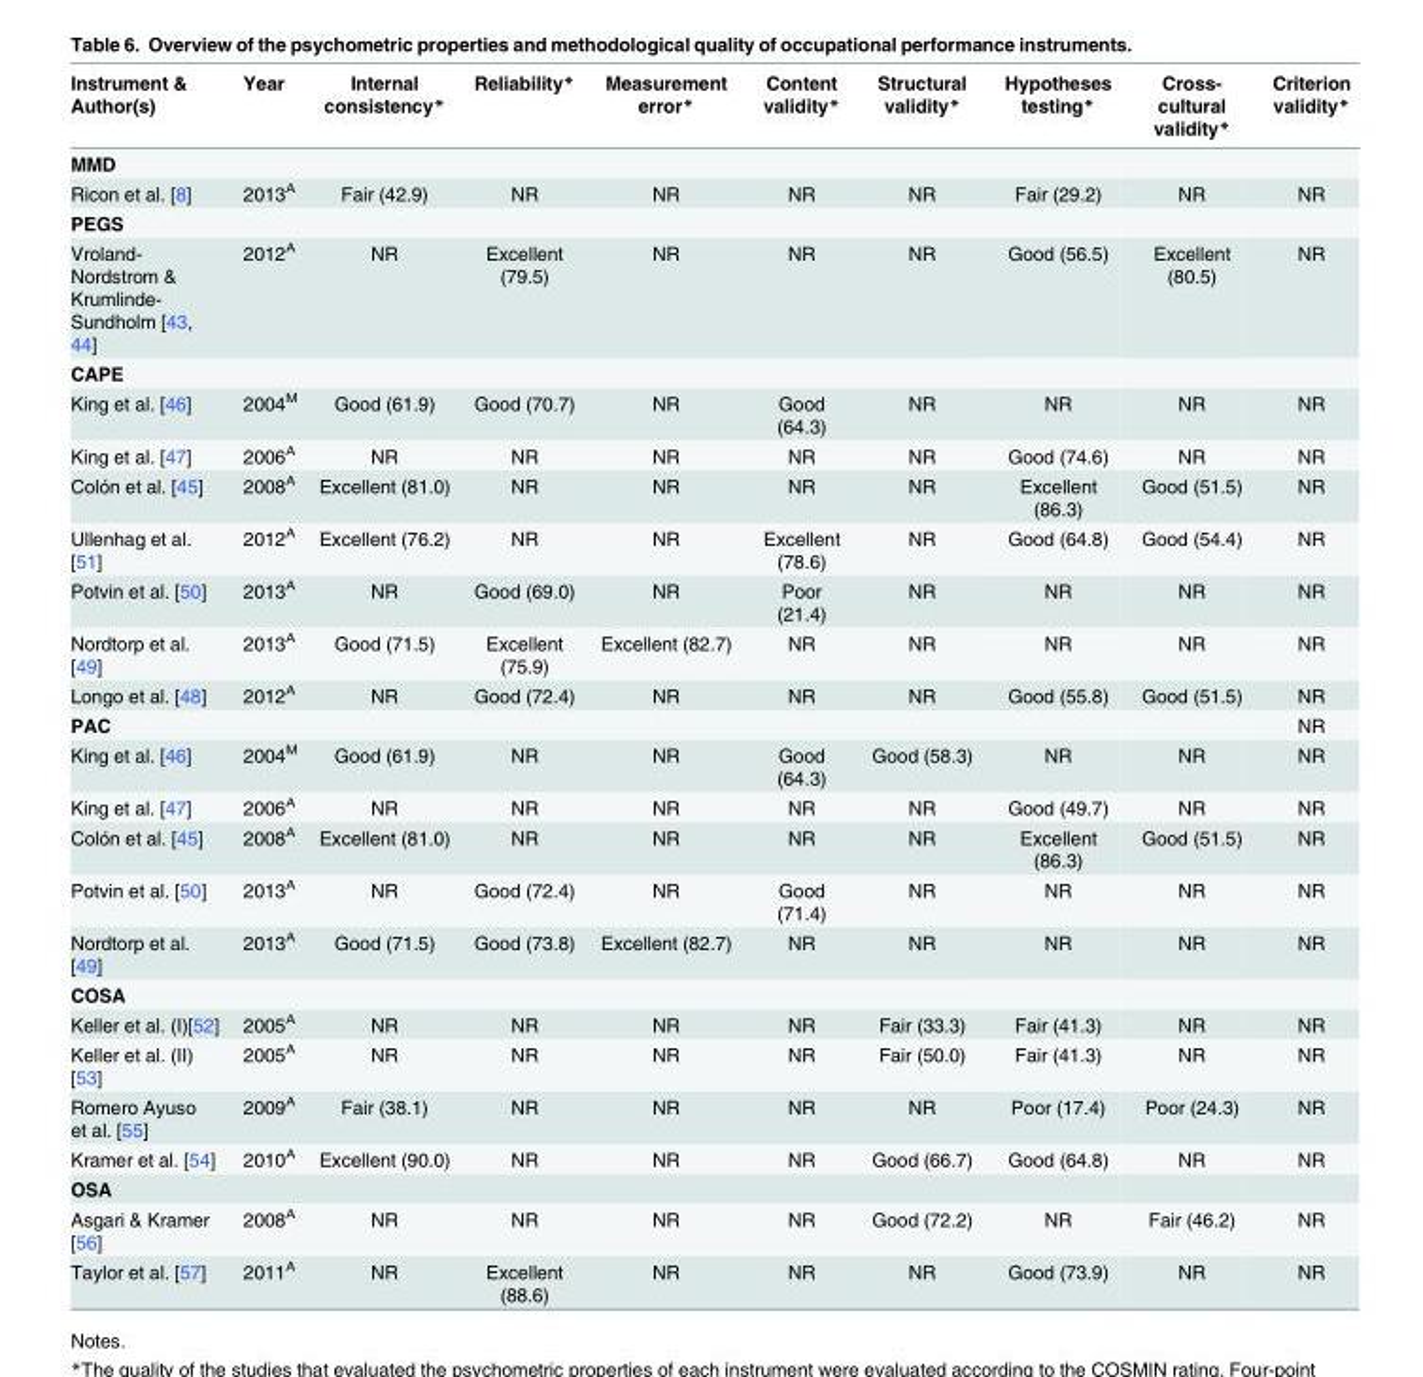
<table><thead><tr><td>Instrument &amp; Author(s)</td><td>Year</td><td>Internal consistency*</td><td>Reliability*</td><td>Measurement error*</td><td>Content validity*</td><td>Structural validity*</td><td>Hypotheses testing*</td><td>Cross- cultural validity*</td><td>Criterion validity*</td></tr></thead><tbody><tr><td colspan="10">MMD</td></tr><tr><td>Ricon et al. [8]</td><td>2013<sup>A</sup></td><td>Fair (42.9)</td><td>NR</td><td>NR</td><td>NR</td><td>NR</td><td>Fair (29.2)</td><td>NR</td><td>NR</td></tr><tr><td colspan="10">PEGS</td></tr><tr><td>Vroland- Nordstrom &amp; Krumlinde- Sundholm [43, 44]</td><td>2012<sup>A</sup></td><td>NR</td><td>Excellent (79.5)</td><td>NR</td><td>NR</td><td>NR</td><td>Good (56.5)</td><td>Excellent (80.5)</td><td>NR</td></tr><tr><td colspan="10">CAPE</td></tr><tr><td>King et al. [46]</td><td>2004<sup>M</sup></td><td>Good (61.9)</td><td>Good (70.7)</td><td>NR</td><td>Good (64.3)</td><td>NR</td><td>NR</td><td>NR</td><td>NR</td></tr><tr><td>King et al. [47]</td><td>2006<sup>A</sup></td><td>NR</td><td>NR</td><td>NR</td><td>NR</td><td>NR</td><td>Good (74.6)</td><td>NR</td><td>NR</td></tr><tr><td>Colón et al. [45]</td><td>2008<sup>A</sup></td><td>Excellent (81.0)</td><td>NR</td><td>NR</td><td>NR</td><td>NR</td><td>Excellent (86.3)</td><td>Good (51.5)</td><td>NR</td></tr><tr><td>Ullenhag et al. [51]</td><td>2012<sup>A</sup></td><td>Excellent (76.2)</td><td>NR</td><td>NR</td><td>Excellent (78.6)</td><td>NR</td><td>Good (64.8)</td><td>Good (54.4)</td><td>NR</td></tr><tr><td>Potvin et al. [50]</td><td>2013<sup>A</sup></td><td>NR</td><td>Good (69.0)</td><td>NR</td><td>Poor (21.4)</td><td>NR</td><td>NR</td><td>NR</td><td>NR</td></tr><tr><td>Nordtorp et al. [49]</td><td>2013<sup>A</sup></td><td>Good (71.5)</td><td>Excellent (75.9)</td><td>Excellent (82.7)</td><td>NR</td><td>NR</td><td>NR</td><td>NR</td><td>NR</td></tr><tr><td>Longo et al. [48]</td><td>2012<sup>A</sup></td><td>NR</td><td>Good (72.4)</td><td>NR</td><td>NR</td><td>NR</td><td>Good (55.8)</td><td>Good (51.5)</td><td>NR</td></tr><tr><td>PAC</td><td></td><td></td><td></td><td></td><td></td><td></td><td></td><td></td><td>NR</td></tr><tr><td>King et al. [46]</td><td>2004<sup>M</sup></td><td>Good (61.9)</td><td>NR</td><td>NR</td><td>Good (64.3)</td><td>Good (58.3)</td><td>NR</td><td>NR</td><td>NR</td></tr><tr><td>King et al. [47]</td><td>2006<sup>A</sup></td><td>NR</td><td>NR</td><td>NR</td><td>NR</td><td>NR</td><td>Good (49.7)</td><td>NR</td><td>NR</td></tr><tr><td>Colón et al. [45]</td><td>2008<sup>A</sup></td><td>Excellent (81.0)</td><td>NR</td><td>NR</td><td>NR</td><td>NR</td><td>Excellent (86.3)</td><td>Good (51.5)</td><td>NR</td></tr><tr><td>Potvin et al. [50]</td><td>2013<sup>A</sup></td><td>NR</td><td>Good (72.4)</td><td>NR</td><td>Good (71.4)</td><td>NR</td><td>NR</td><td>NR</td><td>NR</td></tr><tr><td>Nordtorp et al. [49]</td><td>2013<sup>A</sup></td><td>Good (71.5)</td><td>Good (73.8)</td><td>Excellent (82.7)</td><td>NR</td><td>NR</td><td>NR</td><td>NR</td><td>NR</td></tr><tr><td colspan="10">COSA</td></tr><tr><td>Keller et al. (I)[52]</td><td>2005<sup>A</sup></td><td>NR</td><td>NR</td><td>NR</td><td>NR</td><td>Fair (33.3)</td><td>Fair (41.3)</td><td>NR</td><td>NR</td></tr><tr><td>Keller et al. (II) [53]</td><td>2005<sup>A</sup></td><td>NR</td><td>NR</td><td>NR</td><td>NR</td><td>Fair (50.0)</td><td>Fair (41.3)</td><td>NR</td><td>NR</td></tr><tr><td>Romero Ayuso et al. [55]</td><td>2009<sup>A</sup></td><td>Fair (38.1)</td><td>NR</td><td>NR</td><td>NR</td><td>NR</td><td>Poor (17.4)</td><td>Poor (24.3)</td><td>NR</td></tr><tr><td>Kramer et al. [54]</td><td>2010<sup>A</sup></td><td>Excellent (90.0)</td><td>NR</td><td>NR</td><td>NR</td><td>Good (66.7)</td><td>Good (64.8)</td><td>NR</td><td>NR</td></tr><tr><td colspan="10">OSA</td></tr><tr><td>Asgari &amp; Kramer [56]</td><td>2008<sup>A</sup></td><td>NR</td><td>NR</td><td>NR</td><td>NR</td><td>Good (72.2)</td><td>NR</td><td>Fair (46.2)</td><td>NR</td></tr><tr><td>Taylor et al. [57]</td><td>2011<sup>A</sup></td><td>NR</td><td>Excellent (88.6)</td><td>NR</td><td>NR</td><td>NR</td><td>Good (73.9)</td><td>NR</td><td>NR</td></tr></tbody></table>